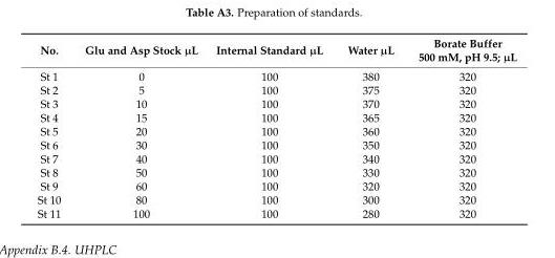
<table><thead><tr><td>No.</td><td>Glu and Asp Stock µL</td><td>Internal Standard µL</td><td>Water µL</td><td>Borate Buffer 500 mM, pH 9.5; µL</td></tr></thead><tbody><tr><td>St 1</td><td>0</td><td>100</td><td>380</td><td>320</td></tr><tr><td>St 2</td><td>5</td><td>100</td><td>375</td><td>320</td></tr><tr><td>St 3</td><td>10</td><td>100</td><td>370</td><td>320</td></tr><tr><td>St 4</td><td>15</td><td>100</td><td>365</td><td>320</td></tr><tr><td>St 5</td><td>20</td><td>100</td><td>360</td><td>320</td></tr><tr><td>St 6</td><td>30</td><td>100</td><td>350</td><td>320</td></tr><tr><td>St 7</td><td>40</td><td>100</td><td>340</td><td>320</td></tr><tr><td>St 8</td><td>50</td><td>100</td><td>330</td><td>320</td></tr><tr><td>St 9</td><td>60</td><td>100</td><td>320</td><td>320</td></tr><tr><td>St 10</td><td>80</td><td>100</td><td>300</td><td>320</td></tr><tr><td>St 11</td><td>100</td><td>100</td><td>280</td><td>320</td></tr></tbody></table>